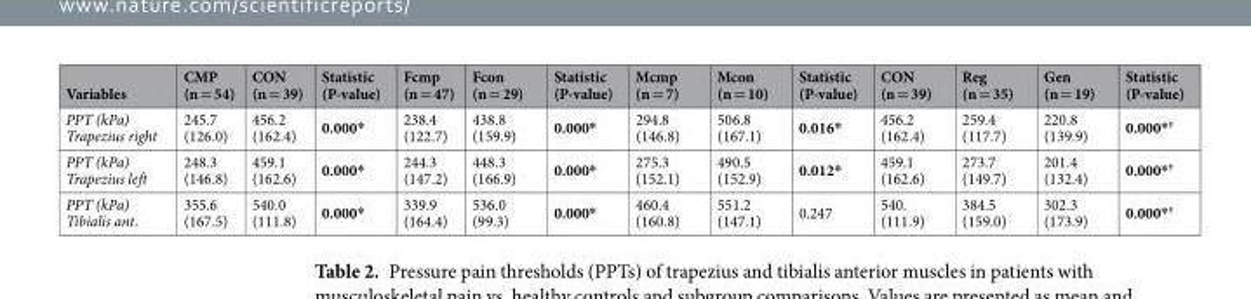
<table><thead><tr><td>Variables</td><td>CMP (n = 54)</td><td>CON (n = 39)</td><td>Statistic (P-value)</td><td>Fcmp (n = 47)</td><td>Fcon (n = 29)</td><td>Statistic (P-value)</td><td>Mcmp (n = 7)</td><td>Mcon (n = 10)</td><td>Statistic (P-value)</td><td>CON (n = 39)</td><td>Reg (n = 35)</td><td>Gen (n = 19)</td><td>Statistic (P-value)</td></tr></thead><tbody><tr><td>PPT (kPa) Trapezius right</td><td>245.7 (126.0)</td><td>456.2 (162.4)</td><td>0.000*</td><td>238.4 (122.7)</td><td>438.8 (159.9)</td><td>0.000*</td><td>294.8 (146.8)</td><td>506.8 (167.1)</td><td>0.016*</td><td>456.2 (162.4)</td><td>259.4 (117.7)</td><td>220.8 (139.9)</td><td>0.000*<sup>†</sup></td></tr><tr><td>PPT (kPa) Trapezius left</td><td>248.3 (146.8)</td><td>459.1 (162.6)</td><td>0.000*</td><td>244.3 (147.2)</td><td>448.3 (166.9)</td><td>0.000*</td><td>275.3 (152.1)</td><td>490.5 (152.9)</td><td>0.012*</td><td>459.1 (162.6)</td><td>273.7 (149.7)</td><td>201.4 (132.4)</td><td>0.000*<sup>†</sup></td></tr><tr><td>PPT (kPa) Tibialis ant.</td><td>355.6 (167.5)</td><td>540.0 (111.8)</td><td>0.000*</td><td>339.9 (164.4)</td><td>536.0 (99.3)</td><td>0.000*</td><td>460.4 (160.8)</td><td>551.2 (147.1)</td><td>0.247</td><td>540. (111.9)</td><td>384.5 (159.0)</td><td>302.3 (173.9)</td><td>0.000*<sup>†</sup></td></tr></tbody></table>